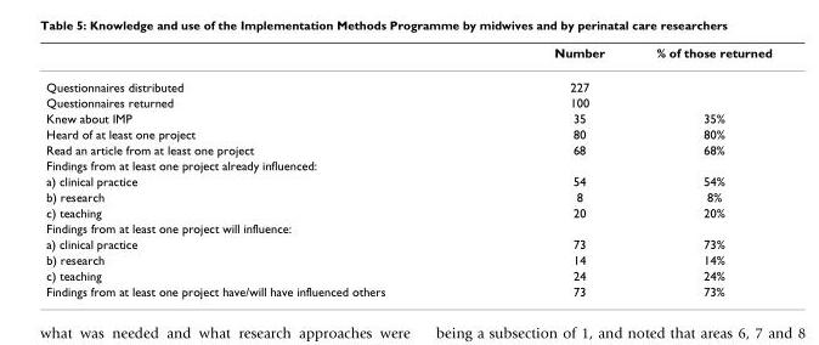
<table><thead><tr><td></td><td>Number</td><td>% of those returned</td></tr></thead><tbody><tr><td>Questionnaires distributed</td><td>227</td><td></td></tr><tr><td>Questionnaires returned</td><td>100</td><td></td></tr><tr><td>Knew about IMP</td><td>35</td><td>35%</td></tr><tr><td>Heard of at least one project</td><td>80</td><td>80%</td></tr><tr><td>Read an article from at least one project</td><td>68</td><td>68%</td></tr><tr><td colspan="3">Findings from at least one project already influenced:</td></tr><tr><td>a) clinical practice</td><td>54</td><td>54%</td></tr><tr><td>b) research</td><td>8</td><td>8%</td></tr><tr><td>c) teaching</td><td>20</td><td>20%</td></tr><tr><td colspan="3">Findings from at least one project will influence:</td></tr><tr><td>a) clinical practice</td><td>73</td><td>73%</td></tr><tr><td>b) research</td><td>14</td><td>14%</td></tr><tr><td>c) teaching</td><td>24</td><td>24%</td></tr><tr><td>Findings from at least one project have/will have influenced others</td><td>73</td><td>73%</td></tr></tbody></table>